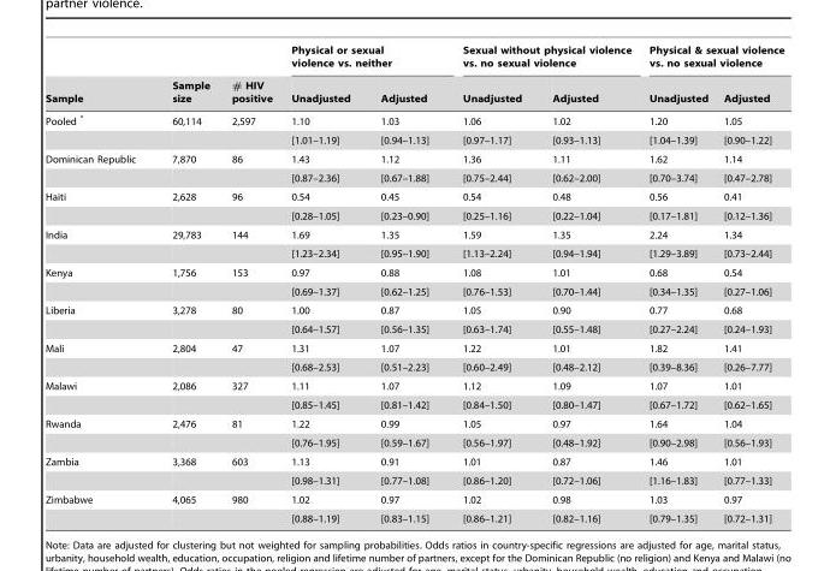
<table><thead><tr><td rowspan="2">Sample</td><td rowspan="2">Sample size</td><td rowspan="2"># HIV positive</td><td colspan="2">Physical or sexual violence vs. neither</td><td colspan="2">Sexual without physical violence vs. no sexual violence</td><td colspan="2">Physical &amp; sexual violence vs. no sexual violence</td></tr><tr><td>Unadjusted</td><td>Adjusted</td><td>Unadjusted</td><td>Adjusted</td><td>Unadjusted</td><td>Adjusted</td></tr></thead><tbody><tr><td rowspan="2">Pooled *</td><td>60,114</td><td>2,597</td><td>1.10</td><td>1.03</td><td>1.06</td><td>1.02</td><td>1.20</td><td>1.05</td></tr><tr><td></td><td></td><td>[1.01–1.19]</td><td>[0.94–1.13]</td><td>[0.97–1.17]</td><td>[0.93–1.13]</td><td>[1.04–1.39]</td><td>[0.90–1.22]</td></tr><tr><td rowspan="2">Dominican Republic</td><td>7,870</td><td>86</td><td>1.43</td><td>1.12</td><td>1.36</td><td>1.11</td><td>1.62</td><td>1.14</td></tr><tr><td></td><td></td><td>[0.87–2.36]</td><td>[0.67–1.88]</td><td>[0.75–2.44]</td><td>[0.62–2.00]</td><td>[0.70–3.74]</td><td>[0.47–2.78]</td></tr><tr><td rowspan="2">Haiti</td><td>2,628</td><td>96</td><td>0.54</td><td>0.45</td><td>0.54</td><td>0.48</td><td>0.56</td><td>0.41</td></tr><tr><td></td><td></td><td>[0.28–1.05]</td><td>[0.23–0.90]</td><td>[0.25–1.16]</td><td>[0.22–1.04]</td><td>[0.17–1.81]</td><td>[0.12–1.36]</td></tr><tr><td rowspan="2">India</td><td>29,783</td><td>144</td><td>1.69</td><td>1.35</td><td>1.59</td><td>1.35</td><td>2.24</td><td>1.34</td></tr><tr><td></td><td></td><td>[1.23–2.34]</td><td>[0.95–1.90]</td><td>[1.13–2.24]</td><td>[0.94–1.94]</td><td>[1.29–3.89]</td><td>[0.73–2.44]</td></tr><tr><td rowspan="2">Kenya</td><td>1,756</td><td>153</td><td>0.97</td><td>0.88</td><td>1.08</td><td>1.01</td><td>0.68</td><td>0.54</td></tr><tr><td></td><td></td><td>[0.69–1.37]</td><td>[0.62–1.25]</td><td>[0.76–1.53]</td><td>[0.70–1.44]</td><td>[0.34–1.35]</td><td>[0.27–1.06]</td></tr><tr><td rowspan="2">Liberia</td><td>3,278</td><td>80</td><td>1.00</td><td>0.87</td><td>1.05</td><td>0.90</td><td>0.77</td><td>0.68</td></tr><tr><td></td><td></td><td>[0.64–1.57]</td><td>[0.56–1.35]</td><td>[0.63–1.74]</td><td>[0.55–1.48]</td><td>[0.27–2.24]</td><td>[0.24–1.93]</td></tr><tr><td rowspan="2">Mali</td><td>2,804</td><td>47</td><td>1.31</td><td>1.07</td><td>1.22</td><td>1.01</td><td>1.82</td><td>1.41</td></tr><tr><td></td><td></td><td>[0.68–2.53]</td><td>[0.51–2.23]</td><td>[0.60–2.49]</td><td>[0.48–2.12]</td><td>[0.39–8.36]</td><td>[0.26–7.77]</td></tr><tr><td rowspan="2">Malawi</td><td>2,086</td><td>327</td><td>1.11</td><td>1.07</td><td>1.12</td><td>1.09</td><td>1.07</td><td>1.01</td></tr><tr><td></td><td></td><td>[0.85–1.45]</td><td>[0.81–1.42]</td><td>[0.84–1.50]</td><td>[0.80–1.47]</td><td>[0.67–1.72]</td><td>[0.62–1.65]</td></tr><tr><td rowspan="2">Rwanda</td><td>2,476</td><td>81</td><td>1.22</td><td>0.99</td><td>1.05</td><td>0.97</td><td>1.64</td><td>1.04</td></tr><tr><td></td><td></td><td>[0.76–1.95]</td><td>[0.59–1.67]</td><td>[0.56–1.97]</td><td>[0.48–1.92]</td><td>[0.90–2.98]</td><td>[0.56–1.93]</td></tr><tr><td rowspan="2">Zambia</td><td>3,368</td><td>603</td><td>1.13</td><td>0.91</td><td>1.01</td><td>0.87</td><td>1.46</td><td>1.01</td></tr><tr><td></td><td></td><td>[0.98–1.31]</td><td>[0.77–1.08]</td><td>[0.86–1.20]</td><td>[0.72–1.06]</td><td>[1.16–1.83]</td><td>[0.77–1.33]</td></tr><tr><td rowspan="2">Zimbabwe</td><td>4,065</td><td>980</td><td>1.02</td><td>0.97</td><td>1.02</td><td>0.98</td><td>1.03</td><td>0.97</td></tr><tr><td></td><td></td><td>[0.88–1.19]</td><td>[0.83–1.15]</td><td>[0.86–1.21]</td><td>[0.82–1.16]</td><td>[0.79–1.35]</td><td>[0.72–1.31]</td></tr></tbody></table>